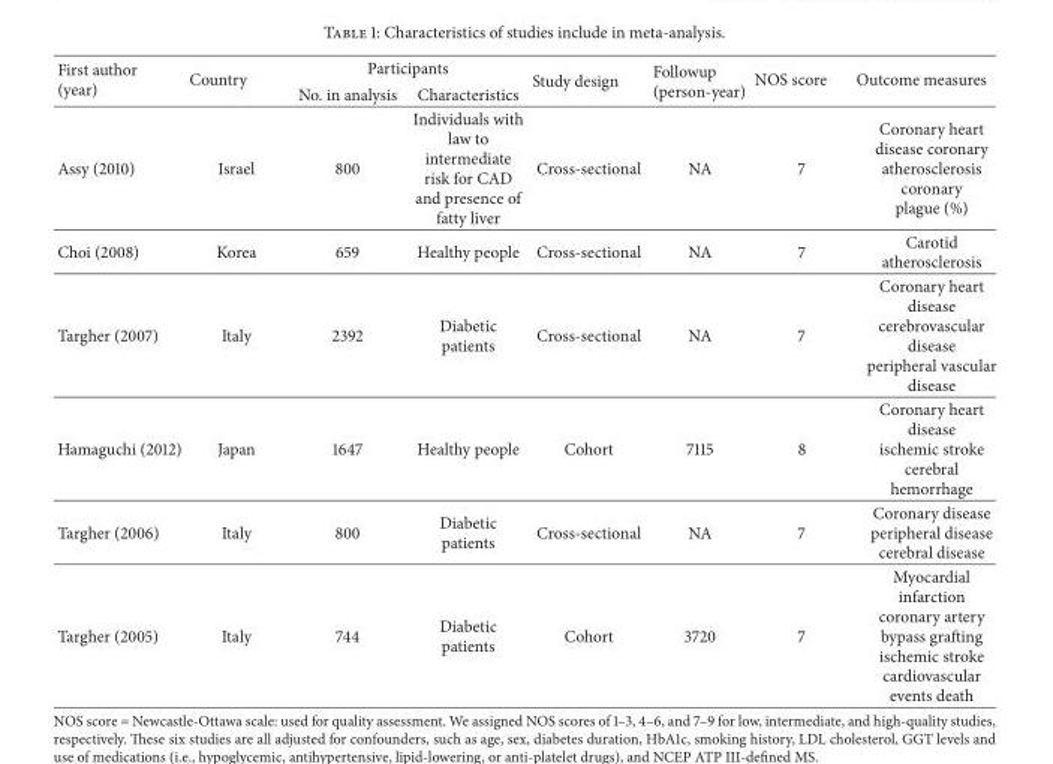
<table><thead><tr><td rowspan="2">First author (year)</td><td rowspan="2">Country</td><td colspan="2">Participants</td><td rowspan="2">Study design</td><td rowspan="2">Followup (person-year)</td><td rowspan="2">NOS score</td><td rowspan="2">Outcome measures</td></tr><tr><td>No. in analysis</td><td>Characteristics</td></tr></thead><tbody><tr><td>Assy (2010)</td><td>Israel</td><td>800</td><td>Individuals with law to intermediate risk for CAD and presence of fatty liver</td><td>Cross-sectional</td><td>NA</td><td>7</td><td>Coronary heart disease coronary atherosclerosis coronary plague (%)</td></tr><tr><td>Choi (2008)</td><td>Korea</td><td>659</td><td>Healthy people</td><td>Cross-sectional</td><td>NA</td><td>7</td><td>Carotid atherosclerosis</td></tr><tr><td>Targher (2007)</td><td>Italy</td><td>2392</td><td>Diabetic patients</td><td>Cross-sectional</td><td>NA</td><td>7</td><td>Coronary heart disease cerebrovascular disease peripheral vascular disease</td></tr><tr><td>Hamaguchi (2012)</td><td>Japan</td><td>1647</td><td>Healthy people</td><td>Cohort</td><td>7115</td><td>8</td><td>Coronary heart disease ischemic stroke cerebral hemorrhage</td></tr><tr><td>Targher (2006)</td><td>Italy</td><td>800</td><td>Diabetic patients</td><td>Cross-sectional</td><td>NA</td><td>7</td><td>Coronary disease peripheral disease cerebral disease</td></tr><tr><td>Targher (2005)</td><td>Italy</td><td>744</td><td>Diabetic patients</td><td>Cohort</td><td>3720</td><td>7</td><td>Myocardial infarction coronary artery bypass grafting ischemic stroke cardiovascular events death</td></tr></tbody></table>